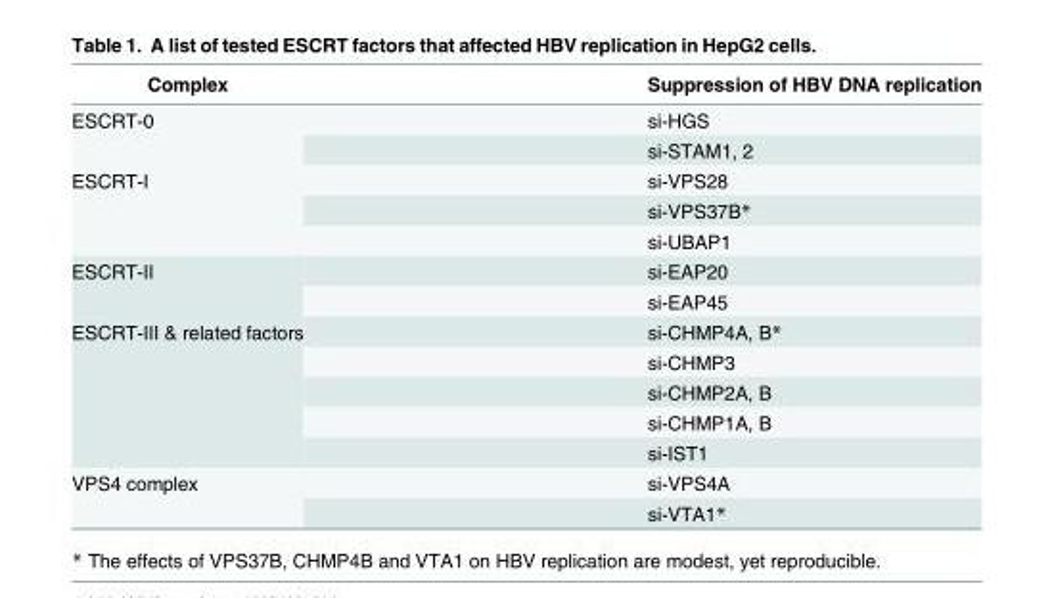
<table><thead><tr><td>Complex</td><td>Suppression of HBV DNA replication</td></tr></thead><tbody><tr><td rowspan="2">ESCRT-0</td><td>si-HGS</td></tr><tr><td>si-STAM1, 2</td></tr><tr><td rowspan="3">ESCRT-I</td><td>si-VPS28</td></tr><tr><td>si-VPS37B*</td></tr><tr><td>si-UBAP1</td></tr><tr><td rowspan="2">ESCRT-II</td><td>si-EAP20</td></tr><tr><td>si-EAP45</td></tr><tr><td rowspan="5">ESCRT-III &amp; related factors</td><td>si-CHMP4A, B*</td></tr><tr><td>si-CHMP3</td></tr><tr><td>si-CHMP2A, B</td></tr><tr><td>si-CHMP1A, B</td></tr><tr><td>si-IST1</td></tr><tr><td rowspan="2">VPS4 complex</td><td>si-VPS4A</td></tr><tr><td>si-VTA1*</td></tr></tbody></table>